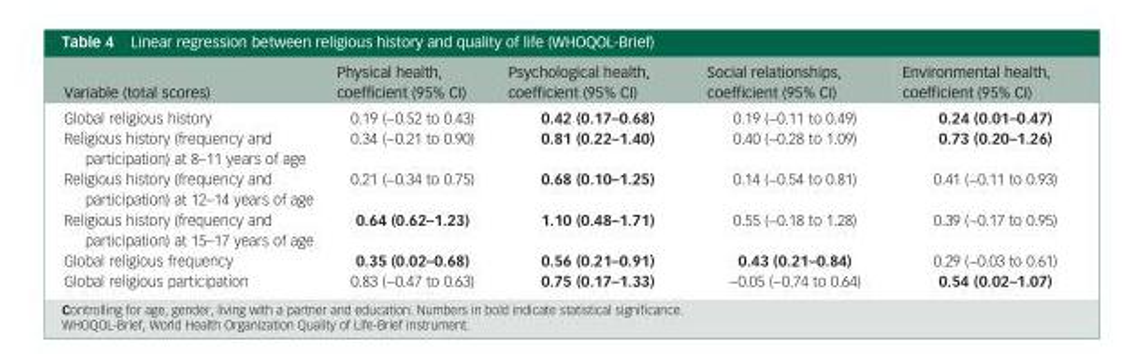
<table><thead><tr><td>Variable (total scores)</td><td>Physical health, coefficient (95% CI)</td><td>Psychological health, coefficient (95% CI)</td><td>Social relationships, coefficient (95% CI)</td><td>Environmental health, coefficient (95% CI)</td></tr></thead><tbody><tr><td>Global religious history</td><td>0.19 (−0.52 to 0.43)</td><td>0.42 (0.17–0.68)</td><td>0.19 (−0.11 to 0.49)</td><td>0.24 (0.01–0.47)</td></tr><tr><td>Religious history (frequency and participation) at 8–11 years of age</td><td>0.34 (−0.21 to 0.90)</td><td>0.81 (0.22–1.40)</td><td>0.40 (−0.28 to 1.09)</td><td>0.73 (0.20–1.26)</td></tr><tr><td>Religious history (frequency and participation) at 12–14 years of age</td><td>0.21 (−0.34 to 0.75)</td><td>0.68 (0.10–1.25)</td><td>0.14 (−0.54 to 0.81)</td><td>0.41 (−0.11 to 0.93)</td></tr><tr><td>Religious history (frequency and participation) at 15–17 years of age</td><td>0.64 (0.62–1.23)</td><td>1.10 (0.48–1.71)</td><td>0.55 (−0.18 to 1.28)</td><td>0.39 (−0.17 to 0.95)</td></tr><tr><td>Global religious frequency</td><td>0.35 (0.02–0.68)</td><td>0.56 (0.21–0.91)</td><td>0.43 (0.21–0.84)</td><td>0.29 (−0.03 to 0.61)</td></tr><tr><td>Global religious participation</td><td>0.83 (−0.47 to 0.63)</td><td>0.75 (0.17–1.33)</td><td>−0.05 (−0.74 to 0.64)</td><td>0.54 (0.02–1.07)</td></tr></tbody></table>